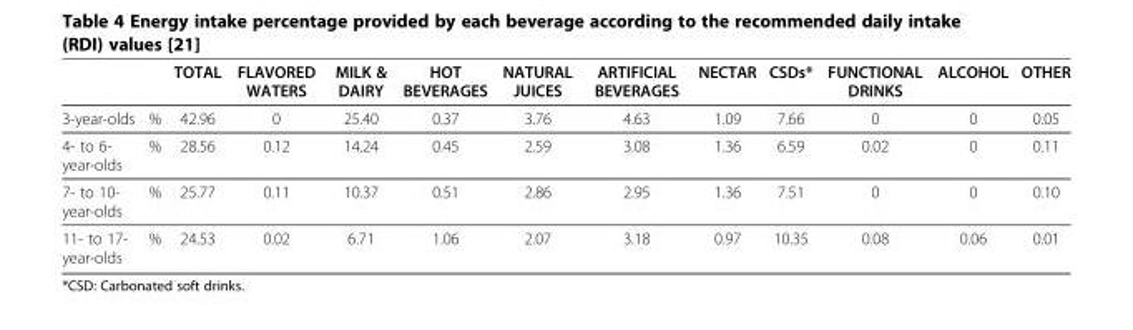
<table><thead><tr><td></td><td></td><td>TOTAL</td><td>FLAVORED WATERS</td><td>MILK &amp; DAIRY</td><td>HOT BEVERAGES</td><td>NATURAL JUICES</td><td>ARTIFICIAL BEVERAGES</td><td>NECTAR</td><td>CSDs*</td><td>FUNCTIONAL DRINKS</td><td>ALCOHOL</td><td>OTHER</td></tr></thead><tbody><tr><td>3-year-olds</td><td>%</td><td>42.96</td><td>0</td><td>25.40</td><td>0.37</td><td>3.76</td><td>4.63</td><td>1.09</td><td>7.66</td><td>0</td><td>0</td><td>0.05</td></tr><tr><td>4- to 6- year-olds</td><td>%</td><td>28.56</td><td>0.12</td><td>14.24</td><td>0.45</td><td>2.59</td><td>3.08</td><td>1.36</td><td>6.59</td><td>0.02</td><td>0</td><td>0.11</td></tr><tr><td>7- to 10- year-olds</td><td>%</td><td>25.77</td><td>0.11</td><td>10.37</td><td>0.51</td><td>2.86</td><td>2.95</td><td>1.36</td><td>7.51</td><td>0</td><td>0</td><td>0.10</td></tr><tr><td>11- to 17- year-olds</td><td>%</td><td>24.53</td><td>0.02</td><td>6.71</td><td>1.06</td><td>2.07</td><td>3.18</td><td>0.97</td><td>10.35</td><td>0.08</td><td>0.06</td><td>0.01</td></tr></tbody></table>